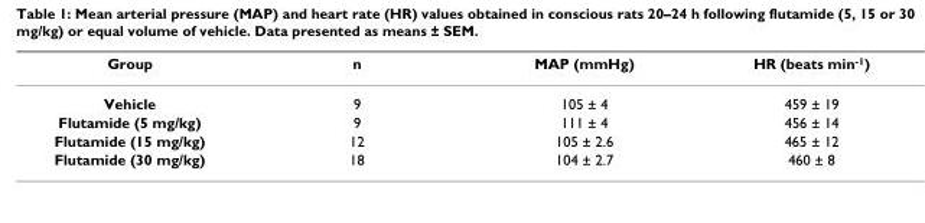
<table><thead><tr><td>Group</td><td>n</td><td>MAP (mmHg)</td><td>HR (beats min<sup>-1</sup>)</td></tr></thead><tbody><tr><td>Vehicle</td><td>9</td><td>105 ± 4</td><td>459 ± 19</td></tr><tr><td>Flutamide (5 mg/kg)</td><td>9</td><td>111 ± 4</td><td>456 ± 14</td></tr><tr><td>Flutamide (15 mg/kg)</td><td>12</td><td>105 ± 2.6</td><td>465 ± 12</td></tr><tr><td>Flutamide (30 mg/kg)</td><td>18</td><td>104 ± 2.7</td><td>460 ± 8</td></tr></tbody></table>